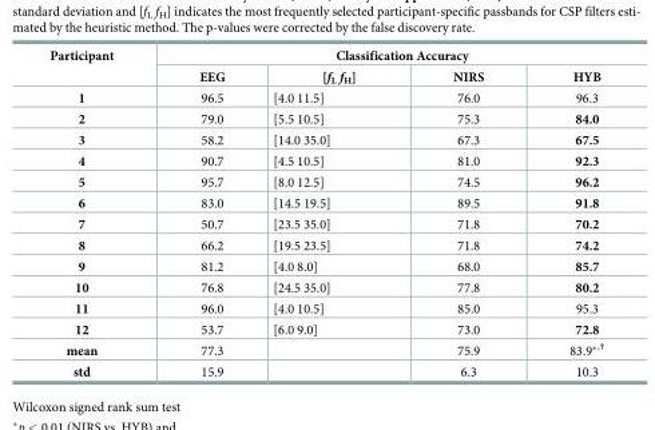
<table><thead><tr><td rowspan="2">Participant</td><td colspan="4">Classification Accuracy</td></tr><tr><td>EEG</td><td>[f<sub>L</sub> f<sub>H</sub>]</td><td>NIRS</td><td>HYB</td></tr></thead><tbody><tr><td>1</td><td>96.5</td><td>[4.0 11.5]</td><td>76.0</td><td>96.3</td></tr><tr><td>2</td><td>79.0</td><td>[5.5 10.5]</td><td>75.3</td><td>84.0</td></tr><tr><td>3</td><td>58.2</td><td>[14.0 35.0]</td><td>67.3</td><td>67.5</td></tr><tr><td>4</td><td>90.7</td><td>[4.5 10.5]</td><td>81.0</td><td>92.3</td></tr><tr><td>5</td><td>95.7</td><td>[8.0 12.5]</td><td>74.5</td><td>96.2</td></tr><tr><td>6</td><td>83.0</td><td>[14.5 19.5]</td><td>89.5</td><td>91.8</td></tr><tr><td>7</td><td>50.7</td><td>[23.5 35.0]</td><td>71.8</td><td>70.2</td></tr><tr><td>8</td><td>66.2</td><td>[19.5 23.5]</td><td>71.8</td><td>74.2</td></tr><tr><td>9</td><td>81.2</td><td>[4.0 8.0]</td><td>68.0</td><td>85.7</td></tr><tr><td>10</td><td>76.8</td><td>[24.5 35.0]</td><td>77.8</td><td>80.2</td></tr><tr><td>11</td><td>96.0</td><td>[4.0 10.5]</td><td>85.0</td><td>95.3</td></tr><tr><td>12</td><td>53.7</td><td>[6.0 9.0]</td><td>73.0</td><td>72.8</td></tr><tr><td>mean</td><td>77.3</td><td></td><td>75.9</td><td>83.9*<sup>,†</sup></td></tr><tr><td>std</td><td>15.9</td><td></td><td>6.3</td><td>10.3</td></tr></tbody></table>